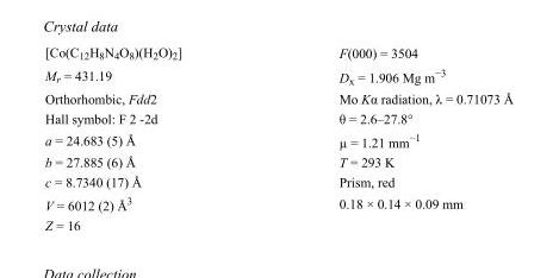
<table><tbody><tr><td>[Co(C<sub>12</sub>H<sub>8</sub>N<sub>4</sub>O<sub>8</sub>)(H<sub>2</sub>O)<sub>2</sub>]</td><td>F(000) = 3504</td></tr><tr><td>M<sub>r</sub> = 431.19</td><td>D<sub>x</sub> = 1.906 Mg m<sup>−3</sup></td></tr><tr><td>Orthorhombic, Fdd2</td><td>Mo Kα radiation, λ = 0.71073 Å</td></tr><tr><td>Hall symbol: F 2 -2d</td><td>θ = 2.6–27.8°</td></tr><tr><td>a = 24.683 (5) Å</td><td>µ = 1.21 mm<sup>−1</sup></td></tr><tr><td>b = 27.885 (6) Å</td><td>T = 293 K</td></tr><tr><td>c = 8.7340 (17) Å</td><td>Prism, red</td></tr><tr><td>V = 6012 (2) Å<sup>3</sup></td><td>0.18 × 0.14 × 0.09 mm</td></tr><tr><td>Z = 16</td><td></td></tr></tbody></table>